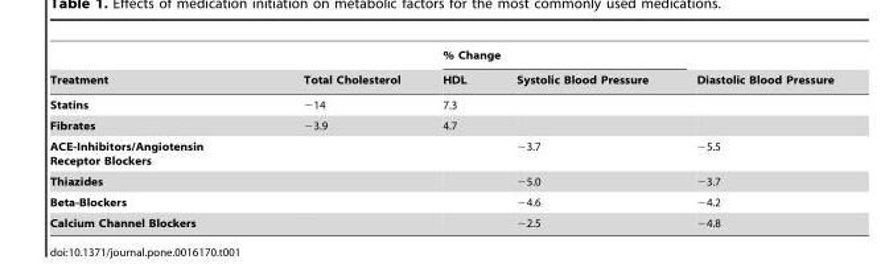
<table><thead><tr><td rowspan="2">Treatment</td><td rowspan="2">Total Cholesterol</td><td colspan="2">% Change</td><td rowspan="2">Diastolic Blood Pressure</td></tr><tr><td>HDL</td><td>Systolic Blood Pressure</td></tr></thead><tbody><tr><td>Statins</td><td>−14</td><td>7.3</td><td></td><td></td></tr><tr><td>Fibrates</td><td>−3.9</td><td>4.7</td><td></td><td></td></tr><tr><td>ACE-Inhibitors/Angiotensin Receptor Blockers</td><td></td><td></td><td>−3.7</td><td>−5.5</td></tr><tr><td>Thiazides</td><td></td><td></td><td>−5.0</td><td>−3.7</td></tr><tr><td>Beta-Blockers</td><td></td><td></td><td>−4.6</td><td>−4.2</td></tr><tr><td>Calcium Channel Blockers</td><td></td><td></td><td>−2.5</td><td>−4.8</td></tr></tbody></table>